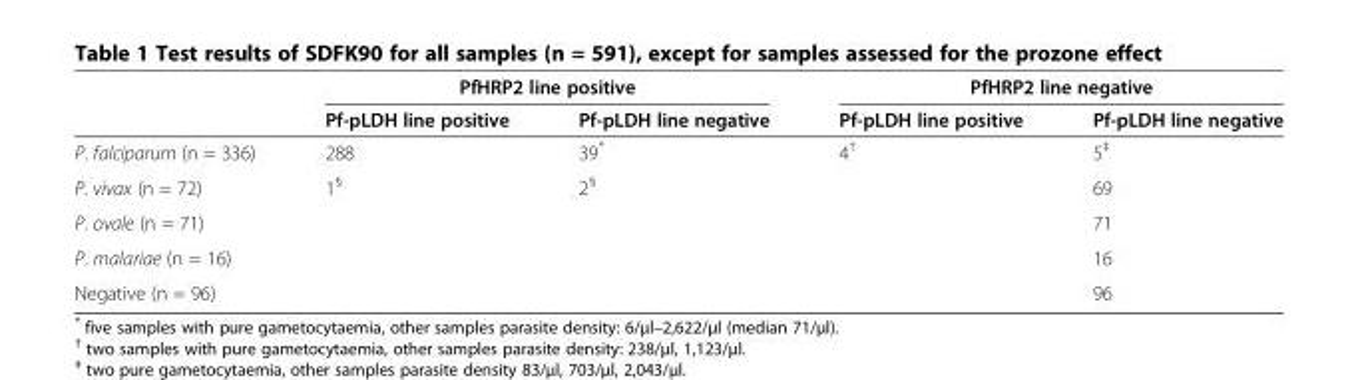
<table><thead><tr><td rowspan="2"></td><td colspan="2">PfHRP2 line positive</td><td colspan="2">PfHRP2 line negative</td></tr><tr><td>Pf-pLDH line positive</td><td>Pf-pLDH line negative</td><td>Pf-pLDH line positive</td><td>Pf-pLDH line negative</td></tr></thead><tbody><tr><td>P. falciparum (n = 336)</td><td>288</td><td>39*</td><td>4<sup>†</sup></td><td>5<sup>‡</sup></td></tr><tr><td>P. vivax (n = 72)</td><td>1<sup>§</sup></td><td>2<sup>§</sup></td><td></td><td>69</td></tr><tr><td>P. ovale (n = 71)</td><td></td><td></td><td></td><td>71</td></tr><tr><td>P. malariae (n = 16)</td><td></td><td></td><td></td><td>16</td></tr><tr><td>Negative (n = 96)</td><td></td><td></td><td></td><td>96</td></tr></tbody></table>